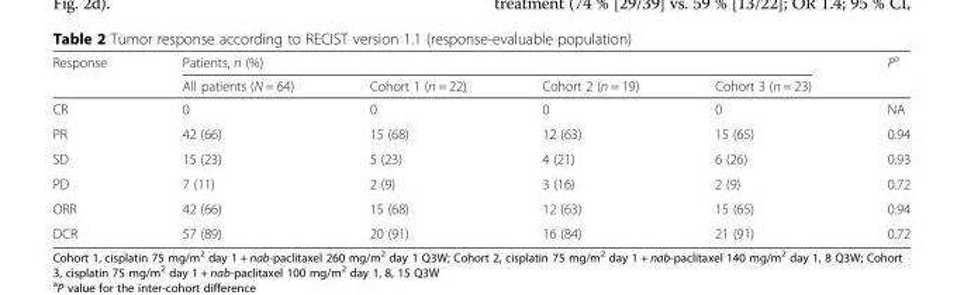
<table><thead><tr><td rowspan="2">Response</td><td colspan="4">Patients, n (%)</td><td rowspan="2">P<sup>a</sup></td></tr><tr><td>All patients (N = 64)</td><td>Cohort 1 (n = 22)</td><td>Cohort 2 (n = 19)</td><td>Cohort 3 (n = 23)</td></tr></thead><tbody><tr><td>CR</td><td>0</td><td>0</td><td>0</td><td>0</td><td>NA</td></tr><tr><td>PR</td><td>42 (66)</td><td>15 (68)</td><td>12 (63)</td><td>15 (65)</td><td>0.94</td></tr><tr><td>SD</td><td>15 (23)</td><td>5 (23)</td><td>4 (21)</td><td>6 (26)</td><td>0.93</td></tr><tr><td>PD</td><td>7 (11)</td><td>2 (9)</td><td>3 (16)</td><td>2 (9)</td><td>0.72</td></tr><tr><td>ORR</td><td>42 (66)</td><td>15 (68)</td><td>12 (63)</td><td>15 (65)</td><td>0.94</td></tr><tr><td>DCR</td><td>57 (89)</td><td>20 (91)</td><td>16 (84)</td><td>21 (91)</td><td>0.72</td></tr></tbody></table>